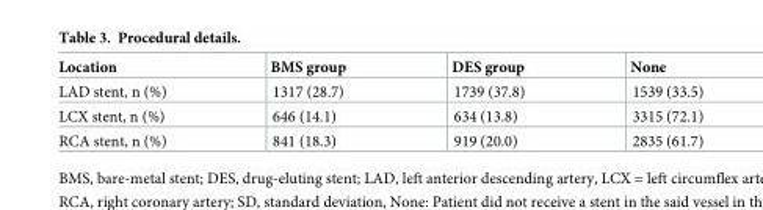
<table><thead><tr><td>Location</td><td>BMS group</td><td>DES group</td><td>None</td></tr></thead><tbody><tr><td>LAD stent, n (%)</td><td>1317 (28.7)</td><td>1739 (37.8)</td><td>1539 (33.5)</td></tr><tr><td>LCX stent, n (%)</td><td>646 (14.1)</td><td>634 (13.8)</td><td>3315 (72.1)</td></tr><tr><td>RCA stent, n (%)</td><td>841 (18.3)</td><td>919 (20.0)</td><td>2835 (61.7)</td></tr></tbody></table>